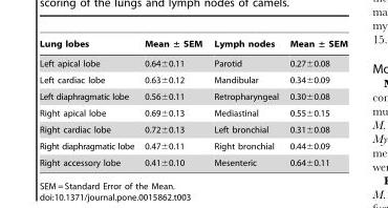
<table><thead><tr><td>Lung lobes</td><td>Mean ± SEM</td><td>Lymph nodes</td><td>Mean ± SEM</td></tr></thead><tbody><tr><td>Left apical lobe</td><td>0.64±0.11</td><td>Parotid</td><td>0.27±0.08</td></tr><tr><td>Left cardiac lobe</td><td>0.63±0.12</td><td>Mandibular</td><td>0.34±0.09</td></tr><tr><td>Left diaphragmatic lobe</td><td>0.56±0.11</td><td>Retropharyngeal</td><td>0.30±0.08</td></tr><tr><td>Right apical lobe</td><td>0.69±0.13</td><td>Mediastinal</td><td>0.55±0.15</td></tr><tr><td>Right cardiac lobe</td><td>0.72±0.13</td><td>Left bronchial</td><td>0.31±0.08</td></tr><tr><td>Right diaphragmatic lobe</td><td>0.47±0.11</td><td>Right bronchial</td><td>0.44±0.09</td></tr><tr><td>Right accessory lobe</td><td>0.41±0.10</td><td>Mesenteric</td><td>0.64±0.11</td></tr></tbody></table>